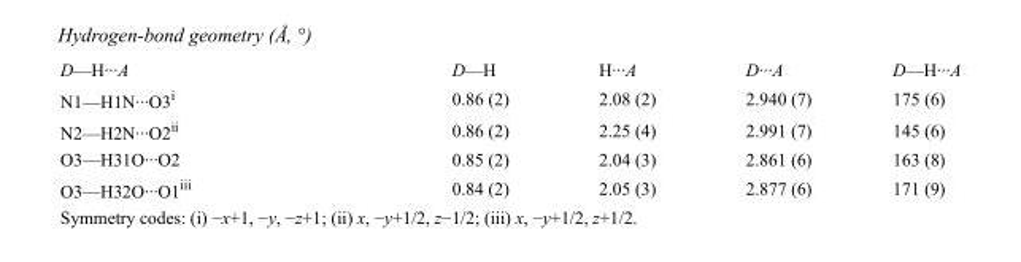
<table><tbody><tr><td>D—H···A</td><td>D—H</td><td>H···A</td><td>D···A</td><td>D—H···A</td></tr><tr><td>N1—H1N···O3<sup>i</sup></td><td>0.86 (2)</td><td>2.08 (2)</td><td>2.940 (7)</td><td>175 (6)</td></tr><tr><td>N2—H2N···O2<sup>ii</sup></td><td>0.86 (2)</td><td>2.25 (4)</td><td>2.991 (7)</td><td>145 (6)</td></tr><tr><td>O3—H31O···O2</td><td>0.85 (2)</td><td>2.04 (3)</td><td>2.861 (6)</td><td>163 (8)</td></tr><tr><td>O3—H32O···O1<sup>iii</sup></td><td>0.84 (2)</td><td>2.05 (3)</td><td>2.877 (6)</td><td>171 (9)</td></tr></tbody></table>